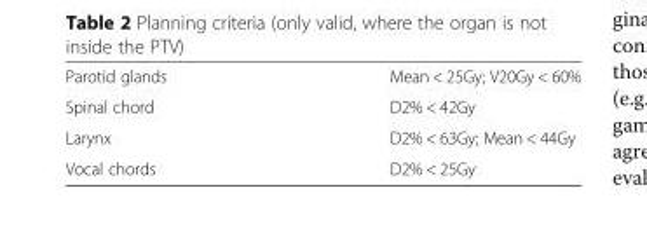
<table><tbody><tr><td>Parotid glands</td><td>Mean &lt; 25Gy; V20Gy &lt; 60%</td></tr><tr><td>Spinal chord</td><td>D2% &lt; 42Gy</td></tr><tr><td>Larynx</td><td>D2% &lt; 63Gy; Mean &lt; 44Gy</td></tr><tr><td>Vocal chords</td><td>D2% &lt; 25Gy</td></tr></tbody></table>